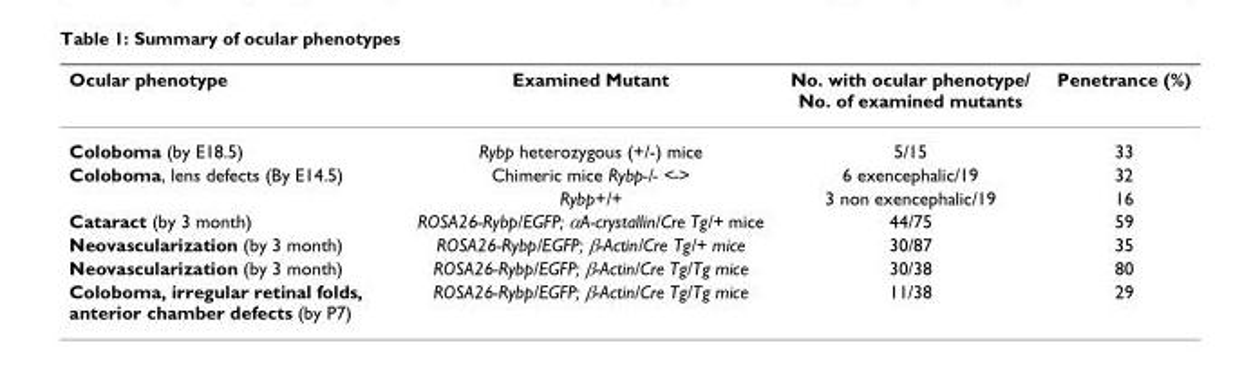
<table><thead><tr><td>Ocular phenotype</td><td>Examined Mutant</td><td>No. with ocular phenotype/ No. of examined mutants</td><td>Penetrance (%)</td></tr></thead><tbody><tr><td>Coloboma (by E18.5)</td><td>Rybp heterozygous (+/-) mice</td><td>5/15</td><td>33</td></tr><tr><td rowspan="2">Coloboma, lens defects (By E14.5)</td><td>Chimeric mice Rybp-/- &lt;-&gt;</td><td>6 exencephalic/19</td><td>32</td></tr><tr><td>Rybp+/+</td><td>3 non exencephalic/19</td><td>16</td></tr><tr><td>Cataract (by 3 month)</td><td>ROSA26-Rybp/EGFP; αA-crystallin/Cre Tg/+ mice</td><td>44/75</td><td>59</td></tr><tr><td>Neovascularization (by 3 month)</td><td>ROSA26-Rybp/EGFP; β-Actin/Cre Tg/+ mice</td><td>30/87</td><td>35</td></tr><tr><td>Neovascularization (by 3 month)</td><td>ROSA26-Rybp/EGFP; β-Actin/Cre Tg/Tg mice</td><td>30/38</td><td>80</td></tr><tr><td>Coloboma, irregular retinal folds, anterior chamber defects (by P7)</td><td>ROSA26-Rybp/EGFP; β-Actin/Cre Tg/Tg mice</td><td>11/38</td><td>29</td></tr></tbody></table>